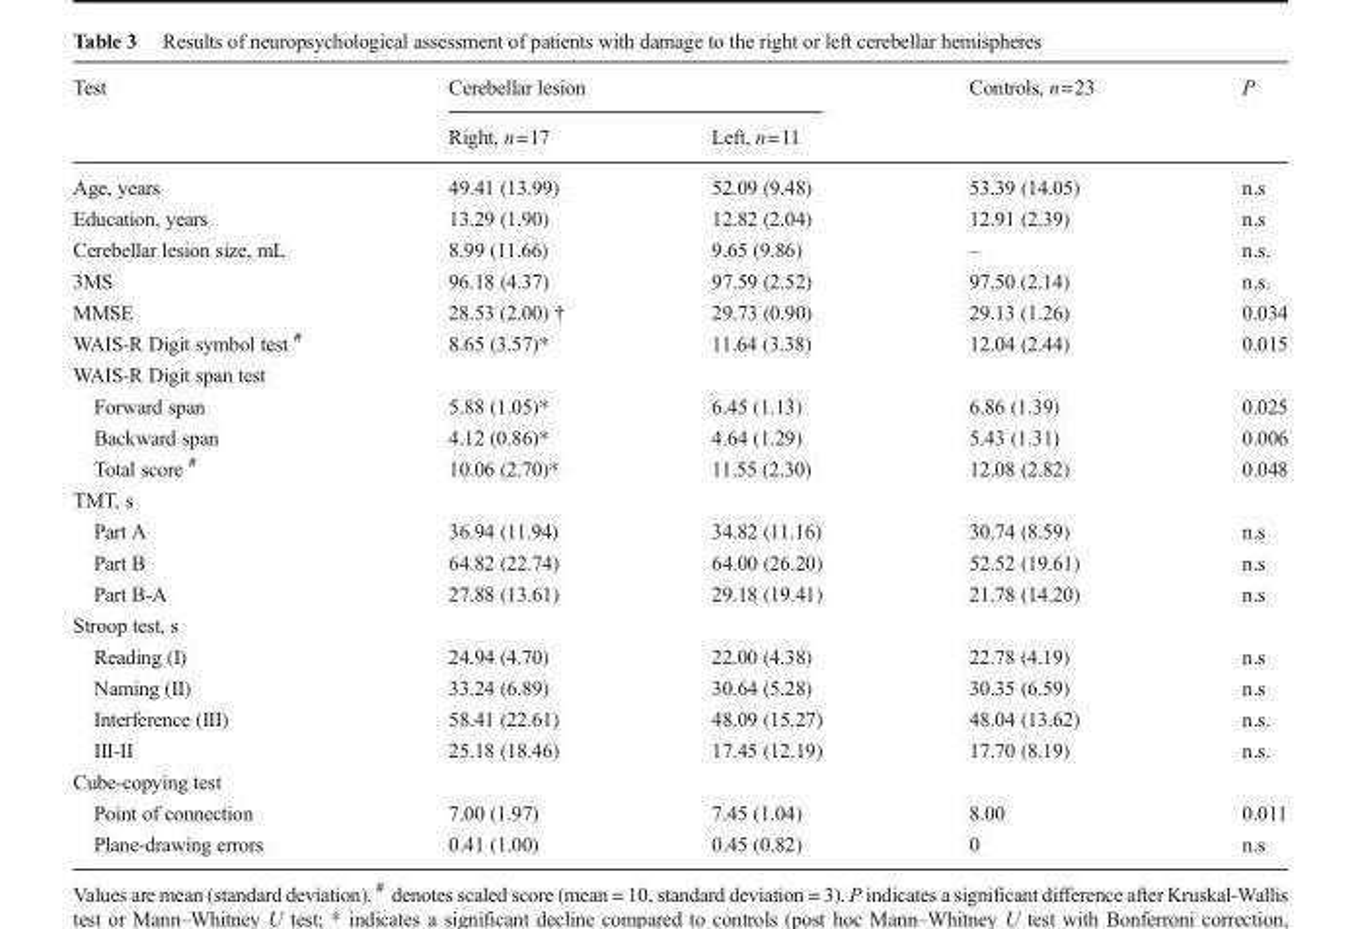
<table><thead><tr><td rowspan="2">Test</td><td colspan="2">Cerebellar lesion</td><td rowspan="2">Controls, n=23</td><td rowspan="2">P</td></tr><tr><td>Right, n=17</td><td>Left, n=11</td></tr></thead><tbody><tr><td>Age, years</td><td>49.41 (13.99)</td><td>52.09 (9.48)</td><td>53.39 (14.05)</td><td>n.s</td></tr><tr><td>Education, years</td><td>13.29 (1.90)</td><td>12.82 (2.04)</td><td>12.91 (2.39)</td><td>n.s</td></tr><tr><td>Cerebellar lesion size, mL</td><td>8.99 (11.66)</td><td>9.65 (9.86)</td><td>–</td><td>n.s.</td></tr><tr><td>3MS</td><td>96.18 (4.37)</td><td>97.59 (2.52)</td><td>97.50 (2.14)</td><td>n.s.</td></tr><tr><td>MMSE</td><td>28.53 (2.00) †</td><td>29.73 (0.90)</td><td>29.13 (1.26)</td><td>0.034</td></tr><tr><td>WAIS-R Digit symbol test <sup>#</sup></td><td>8.65 (3.57)*</td><td>11.64 (3.38)</td><td>12.04 (2.44)</td><td>0.015</td></tr><tr><td colspan="5">WAIS-R Digit span test</td></tr><tr><td>Forward span</td><td>5.88 (1.05)*</td><td>6.45 (1.13)</td><td>6.86 (1.39)</td><td>0.025</td></tr><tr><td>Backward span</td><td>4.12 (0.86)*</td><td>4.64 (1.29)</td><td>5.43 (1.31)</td><td>0.006</td></tr><tr><td>Total score <sup>#</sup></td><td>10.06 (2.70)*</td><td>11.55 (2.30)</td><td>12.08 (2.82)</td><td>0.048</td></tr><tr><td colspan="5">TMT, s</td></tr><tr><td>Part A</td><td>36.94 (11.94)</td><td>34.82 (11.16)</td><td>30.74 (8.59)</td><td>n.s</td></tr><tr><td>Part B</td><td>64.82 (22.74)</td><td>64.00 (26.20)</td><td>52.52 (19.61)</td><td>n.s</td></tr><tr><td>Part B-A</td><td>27.88 (13.61)</td><td>29.18 (19.41)</td><td>21.78 (14.20)</td><td>n.s</td></tr><tr><td colspan="5">Stroop test, s</td></tr><tr><td>Reading (I)</td><td>24.94 (4.70)</td><td>22.00 (4.38)</td><td>22.78 (4.19)</td><td>n.s</td></tr><tr><td>Naming (II)</td><td>33.24 (6.89)</td><td>30.64 (5.28)</td><td>30.35 (6.59)</td><td>n.s</td></tr><tr><td>Interference (III)</td><td>58.41 (22.61)</td><td>48.09 (15.27)</td><td>48.04 (13.62)</td><td>n.s.</td></tr><tr><td>III-II</td><td>25.18 (18.46)</td><td>17.45 (12.19)</td><td>17.70 (8.19)</td><td>n.s.</td></tr><tr><td colspan="5">Cube-copying test</td></tr><tr><td>Point of connection</td><td>7.00 (1.97)</td><td>7.45 (1.04)</td><td>8.00</td><td>0.011</td></tr><tr><td>Plane-drawing errors</td><td>0.41 (1.00)</td><td>0.45 (0.82)</td><td>0</td><td>n.s</td></tr></tbody></table>